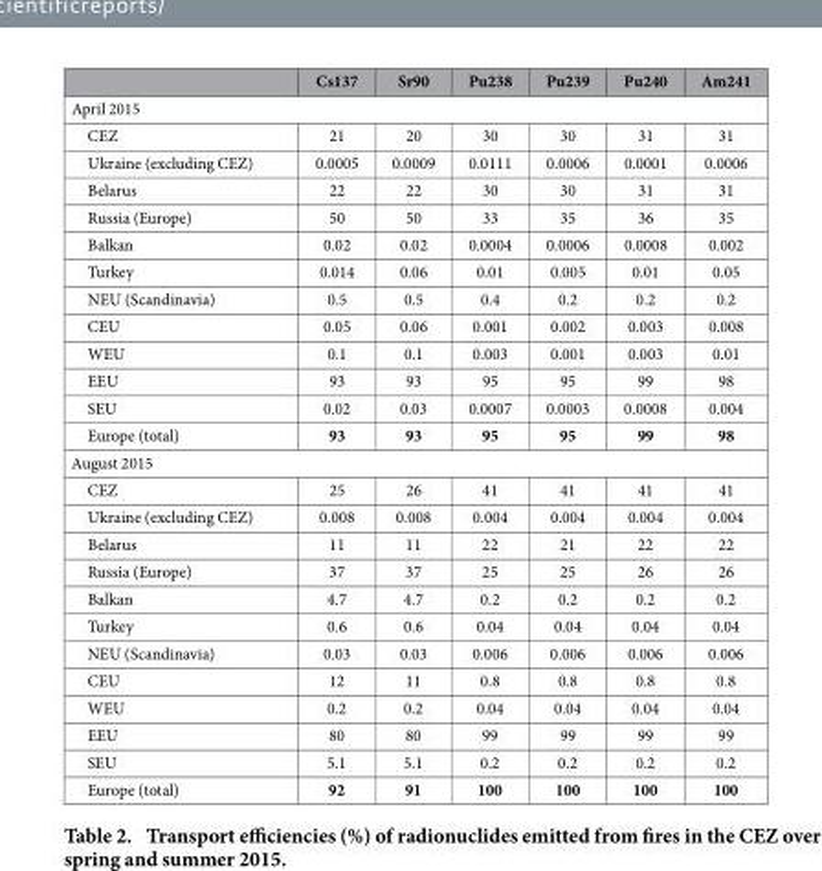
<table><thead><tr><td></td><td>Cs137</td><td>Sr90</td><td>Pu238</td><td>Pu239</td><td>Pu240</td><td>Am241</td></tr></thead><tbody><tr><td colspan="7">April 2015</td></tr><tr><td>CEZ</td><td>21</td><td>20</td><td>30</td><td>30</td><td>31</td><td>31</td></tr><tr><td>Ukraine (excluding CEZ)</td><td>0.0005</td><td>0.0009</td><td>0.0111</td><td>0.0006</td><td>0.0001</td><td>0.0006</td></tr><tr><td>Belarus</td><td>22</td><td>22</td><td>30</td><td>30</td><td>31</td><td>31</td></tr><tr><td>Russia (Europe)</td><td>50</td><td>50</td><td>33</td><td>35</td><td>36</td><td>35</td></tr><tr><td>Balkan</td><td>0.02</td><td>0.02</td><td>0.0004</td><td>0.0006</td><td>0.0008</td><td>0.002</td></tr><tr><td>Turkey</td><td>0.014</td><td>0.06</td><td>0.01</td><td>0.005</td><td>0.01</td><td>0.05</td></tr><tr><td>NEU (Scandinavia)</td><td>0.5</td><td>0.5</td><td>0.4</td><td>0.2</td><td>0.2</td><td>0.2</td></tr><tr><td>CEU</td><td>0.05</td><td>0.06</td><td>0.001</td><td>0.002</td><td>0.003</td><td>0.008</td></tr><tr><td>WEU</td><td>0.1</td><td>0.1</td><td>0.003</td><td>0.001</td><td>0.003</td><td>0.01</td></tr><tr><td>EEU</td><td>93</td><td>93</td><td>95</td><td>95</td><td>99</td><td>98</td></tr><tr><td>SEU</td><td>0.02</td><td>0.03</td><td>0.0007</td><td>0.0003</td><td>0.0008</td><td>0.004</td></tr><tr><td>Europe (total)</td><td>93</td><td>93</td><td>95</td><td>95</td><td>99</td><td>98</td></tr><tr><td colspan="7">August 2015</td></tr><tr><td>CEZ</td><td>25</td><td>26</td><td>41</td><td>41</td><td>41</td><td>41</td></tr><tr><td>Ukraine (excluding CEZ)</td><td>0.008</td><td>0.008</td><td>0.004</td><td>0.004</td><td>0.004</td><td>0.004</td></tr><tr><td>Belarus</td><td>11</td><td>11</td><td>22</td><td>21</td><td>22</td><td>22</td></tr><tr><td>Russia (Europe)</td><td>37</td><td>37</td><td>25</td><td>25</td><td>26</td><td>26</td></tr><tr><td>Balkan</td><td>4.7</td><td>4.7</td><td>0.2</td><td>0.2</td><td>0.2</td><td>0.2</td></tr><tr><td>Turkey</td><td>0.6</td><td>0.6</td><td>0.04</td><td>0.04</td><td>0.04</td><td>0.04</td></tr><tr><td>NEU (Scandinavia)</td><td>0.03</td><td>0.03</td><td>0.006</td><td>0.006</td><td>0.006</td><td>0.006</td></tr><tr><td>CEU</td><td>12</td><td>11</td><td>0.8</td><td>0.8</td><td>0.8</td><td>0.8</td></tr><tr><td>WEU</td><td>0.2</td><td>0.2</td><td>0.04</td><td>0.04</td><td>0.04</td><td>0.04</td></tr><tr><td>EEU</td><td>80</td><td>80</td><td>99</td><td>99</td><td>99</td><td>99</td></tr><tr><td>SEU</td><td>5.1</td><td>5.1</td><td>0.2</td><td>0.2</td><td>0.2</td><td>0.2</td></tr><tr><td>Europe (total)</td><td>92</td><td>91</td><td>100</td><td>100</td><td>100</td><td>100</td></tr></tbody></table>